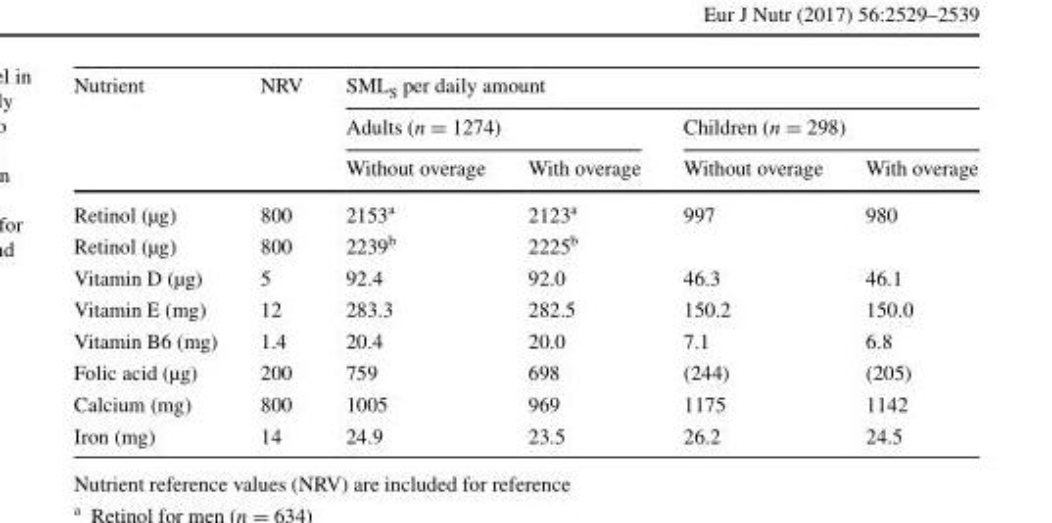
<table><thead><tr><td rowspan="3">Nutrient</td><td rowspan="3">NRV</td><td colspan="4">SML<sub>S</sub> per daily amount</td></tr><tr><td colspan="2">Adults (n = 1274)</td><td colspan="2">Children (n = 298)</td></tr><tr><td>Without overage</td><td>With overage</td><td>Without overage</td><td>With overage</td></tr></thead><tbody><tr><td>Retinol (µg)</td><td>800</td><td>2153<sup>a</sup></td><td>2123<sup>a</sup></td><td>997</td><td>980</td></tr><tr><td>Retinol (µg)</td><td>800</td><td>2239<sup>b</sup></td><td>2225<sup>b</sup></td><td></td><td></td></tr><tr><td>Vitamin D (µg)</td><td>5</td><td>92.4</td><td>92.0</td><td>46.3</td><td>46.1</td></tr><tr><td>Vitamin E (mg)</td><td>12</td><td>283.3</td><td>282.5</td><td>150.2</td><td>150.0</td></tr><tr><td>Vitamin B6 (mg)</td><td>1.4</td><td>20.4</td><td>20.0</td><td>7.1</td><td>6.8</td></tr><tr><td>Folic acid (µg)</td><td>200</td><td>759</td><td>698</td><td>(244)</td><td>(205)</td></tr><tr><td>Calcium (mg)</td><td>800</td><td>1005</td><td>969</td><td>1175</td><td>1142</td></tr><tr><td>Iron (mg)</td><td>14</td><td>24.9</td><td>23.5</td><td>26.2</td><td>24.5</td></tr></tbody></table>